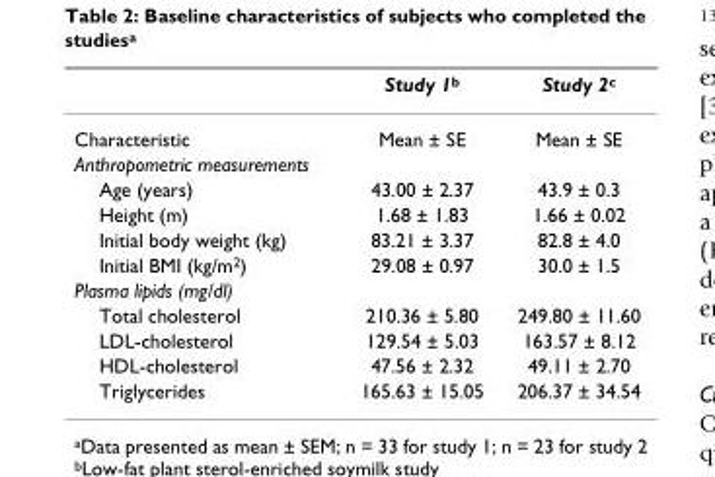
<table><thead><tr><td></td><td>Study 1<sup>b</sup></td><td>Study 2<sup>c</sup></td></tr></thead><tbody><tr><td>Characteristic</td><td>Mean ± SE</td><td>Mean ± SE</td></tr><tr><td colspan="3">Anthropometric measurements</td></tr><tr><td>Age (years)</td><td>43.00 ± 2.37</td><td>43.9 ± 0.3</td></tr><tr><td>Height (m)</td><td>1.68 ± 1.83</td><td>1.66 ± 0.02</td></tr><tr><td>Initial body weight (kg)</td><td>83.21 ± 3.37</td><td>82.8 ± 4.0</td></tr><tr><td>Initial BMI (kg/m<sup>2</sup>)</td><td>29.08 ± 0.97</td><td>30.0 ± 1.5</td></tr><tr><td colspan="3">Plasma lipids (mg/dl)</td></tr><tr><td>Total cholesterol</td><td>210.36 ± 5.80</td><td>249.80 ± 11.60</td></tr><tr><td>LDL-cholesterol</td><td>129.54 ± 5.03</td><td>163.57 ± 8.12</td></tr><tr><td>HDL-cholesterol</td><td>47.56 ± 2.32</td><td>49.11 ± 2.70</td></tr><tr><td>Triglycerides</td><td>165.63 ± 15.05</td><td>206.37 ± 34.54</td></tr></tbody></table>